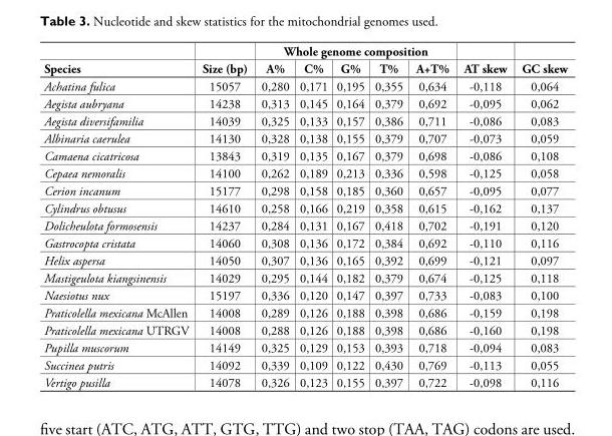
<table><thead><tr><td rowspan="2">Species</td><td rowspan="2">Size (bp)</td><td colspan="5">Whole genome composition</td><td rowspan="2">AT skew</td><td rowspan="2">GC skew</td></tr><tr><td>A%</td><td>C%</td><td>G%</td><td>T%</td><td>A+T%</td></tr></thead><tbody><tr><td>Achatina fulica</td><td>15057</td><td>0,280</td><td>0,171</td><td>0,195</td><td>0,355</td><td>0,634</td><td>-0,118</td><td>0,064</td></tr><tr><td>Aegista aubryana</td><td>14238</td><td>0,313</td><td>0,145</td><td>0,164</td><td>0,379</td><td>0,692</td><td>-0,095</td><td>0,062</td></tr><tr><td>Aegista diversifamilia</td><td>14039</td><td>0,325</td><td>0,133</td><td>0,157</td><td>0,386</td><td>0,711</td><td>-0,086</td><td>0,083</td></tr><tr><td>Albinaria caerulea</td><td>14130</td><td>0,328</td><td>0,138</td><td>0,155</td><td>0,379</td><td>0,707</td><td>-0,073</td><td>0,059</td></tr><tr><td>Camaena cicatricosa</td><td>13843</td><td>0,319</td><td>0,135</td><td>0,167</td><td>0,379</td><td>0,698</td><td>-0,086</td><td>0,108</td></tr><tr><td>Cepaea nemoralis</td><td>14100</td><td>0,262</td><td>0,189</td><td>0,213</td><td>0,336</td><td>0,598</td><td>-0,125</td><td>0,058</td></tr><tr><td>Cerion incanum</td><td>15177</td><td>0,298</td><td>0,158</td><td>0,185</td><td>0,360</td><td>0,657</td><td>-0,095</td><td>0,077</td></tr><tr><td>Cylindrus obtusus</td><td>14610</td><td>0,258</td><td>0,166</td><td>0,219</td><td>0,358</td><td>0,615</td><td>-0,162</td><td>0,137</td></tr><tr><td>Dolicheulota formosensis</td><td>14237</td><td>0,284</td><td>0,131</td><td>0,167</td><td>0,418</td><td>0,702</td><td>-0,191</td><td>0,120</td></tr><tr><td>Gastrocopta cristata</td><td>14060</td><td>0,308</td><td>0,136</td><td>0,172</td><td>0,384</td><td>0,692</td><td>-0,110</td><td>0,116</td></tr><tr><td>Helix aspersa</td><td>14050</td><td>0,307</td><td>0,136</td><td>0,165</td><td>0,392</td><td>0,699</td><td>-0,121</td><td>0,097</td></tr><tr><td>Mastigeulota kiangsinensis</td><td>14029</td><td>0,295</td><td>0,144</td><td>0,182</td><td>0,379</td><td>0,674</td><td>-0,125</td><td>0,118</td></tr><tr><td>Naesiotus nux</td><td>15197</td><td>0,336</td><td>0,120</td><td>0,147</td><td>0,397</td><td>0,733</td><td>-0,083</td><td>0,100</td></tr><tr><td>Praticolella mexicana McAllen</td><td>14008</td><td>0,289</td><td>0,126</td><td>0,188</td><td>0,398</td><td>0,686</td><td>-0,159</td><td>0,198</td></tr><tr><td>Praticolella mexicana UTRGV</td><td>14008</td><td>0,288</td><td>0,126</td><td>0,188</td><td>0,398</td><td>0,686</td><td>-0,160</td><td>0,198</td></tr><tr><td>Pupilla muscorum</td><td>14149</td><td>0,325</td><td>0,129</td><td>0,153</td><td>0,393</td><td>0,718</td><td>-0,094</td><td>0,083</td></tr><tr><td>Succinea putris</td><td>14092</td><td>0,339</td><td>0,109</td><td>0,122</td><td>0,430</td><td>0,769</td><td>-0,113</td><td>0,055</td></tr><tr><td>Vertigo pusilla</td><td>14078</td><td>0,326</td><td>0,123</td><td>0,155</td><td>0,397</td><td>0,722</td><td>-0,098</td><td>0,116</td></tr></tbody></table>